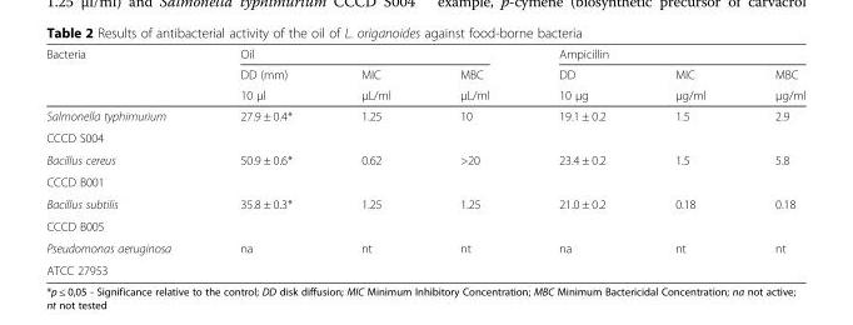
<table><thead><tr><td rowspan="3">Bacteria</td><td colspan="3">Oil</td><td colspan="3">Ampicillin</td></tr><tr><td rowspan="2">DD (mm) 10 μl</td><td rowspan="2">MIC μL/ml</td><td rowspan="2">MBC μL/ml</td><td rowspan="2">DD 10 μg</td><td rowspan="2">MIC μg/ml</td><td rowspan="2">MBC μg/ml</td></tr><tr></tr></thead><tbody><tr><td>Salmonella typhimurium</td><td rowspan="2">27.9 ± 0.4*</td><td rowspan="2">1.25</td><td rowspan="2">10</td><td rowspan="2">19.1 ± 0.2</td><td rowspan="2">1.5</td><td rowspan="2">2.9</td></tr><tr><td>CCCD S004</td></tr><tr><td>Bacillus cereus</td><td rowspan="2">50.9 ± 0.6*</td><td rowspan="2">0.62</td><td rowspan="2">&gt;20</td><td rowspan="2">23.4 ± 0.2</td><td rowspan="2">1.5</td><td rowspan="2">5.8</td></tr><tr><td>CCCD B001</td></tr><tr><td>Bacillus subtilis</td><td rowspan="2">35.8 ± 0.3*</td><td rowspan="2">1.25</td><td rowspan="2">1.25</td><td rowspan="2">21.0 ± 0.2</td><td rowspan="2">0.18</td><td rowspan="2">0.18</td></tr><tr><td>CCCD B005</td></tr><tr><td>Pseudomonas aeruginosa</td><td rowspan="2">na</td><td rowspan="2">nt</td><td rowspan="2">nt</td><td rowspan="2">na</td><td rowspan="2">nt</td><td rowspan="2">nt</td></tr><tr><td>ATCC 27953</td></tr></tbody></table>